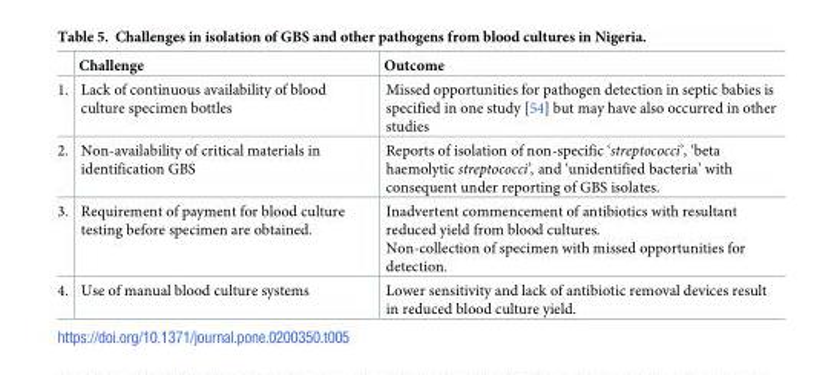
<table><thead><tr><td></td><td>Challenge</td><td>Outcome</td></tr></thead><tbody><tr><td>1.</td><td>Lack of continuous availability of blood culture specimen bottles</td><td>Missed opportunities for pathogen detection in septic babies is specified in one study [54] but may have also occurred in other studies</td></tr><tr><td>2.</td><td>Non-availability of critical materials in identification GBS</td><td>Reports of isolation of non-specific ‘streptococci’, ‘beta haemolytic streptococci’, and ‘unidentified bacteria’ with consequent under reporting of GBS isolates.</td></tr><tr><td>3.</td><td>Requirement of payment for blood culture testing before specimen are obtained.</td><td>Inadvertent commencement of antibiotics with resultant reduced yield from blood cultures. Non-collection of specimen with missed opportunities for detection.</td></tr><tr><td>4.</td><td>Use of manual blood culture systems</td><td>Lower sensitivity and lack of antibiotic removal devices result in reduced blood culture yield.</td></tr></tbody></table>